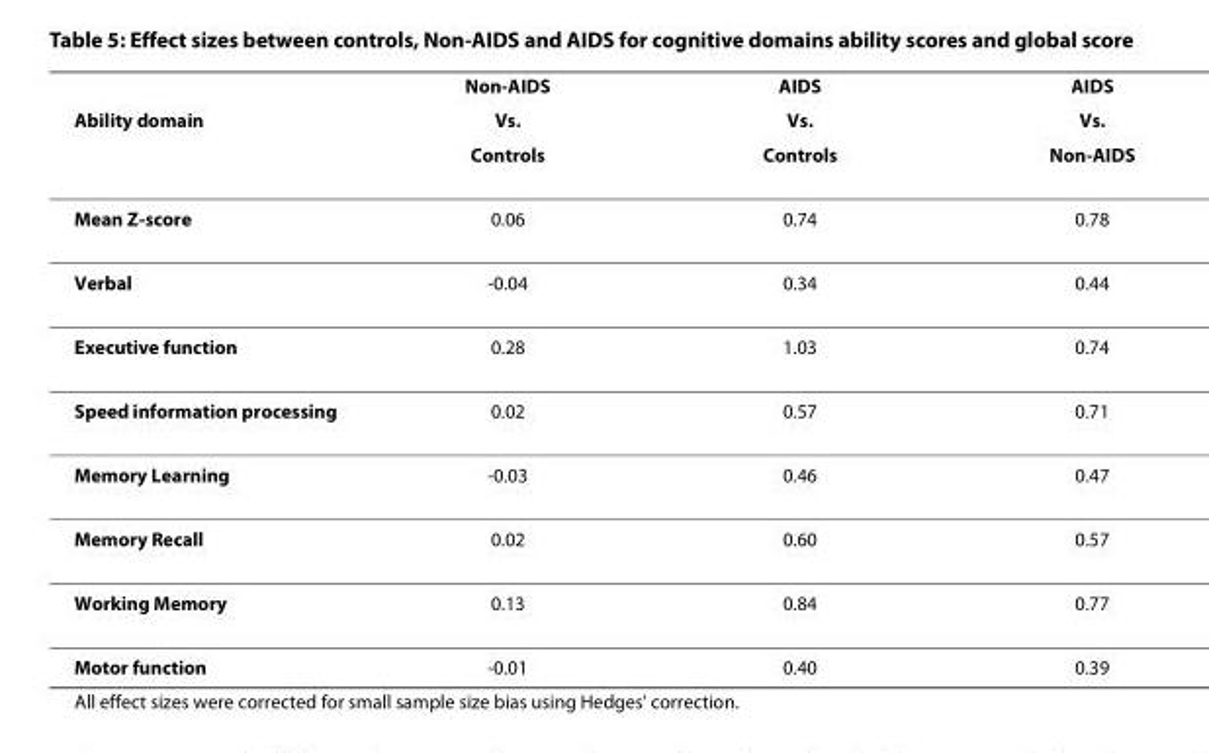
<table><thead><tr><td rowspan="3">Ability domain</td><td rowspan="3">Non-AIDS Vs. Controls</td><td rowspan="3">AIDS Vs. Controls</td><td rowspan="3">AIDS Vs. Non-AIDS</td></tr><tr></tr><tr></tr></thead><tbody><tr><td>Mean Z-score</td><td>0.06</td><td>0.74</td><td>0.78</td></tr><tr><td>Verbal</td><td>-0.04</td><td>0.34</td><td>0.44</td></tr><tr><td>Executive function</td><td>0.28</td><td>1.03</td><td>0.74</td></tr><tr><td>Speed information processing</td><td>0.02</td><td>0.57</td><td>0.71</td></tr><tr><td>Memory Learning</td><td>-0.03</td><td>0.46</td><td>0.47</td></tr><tr><td>Memory Recall</td><td>0.02</td><td>0.60</td><td>0.57</td></tr><tr><td>Working Memory</td><td>0.13</td><td>0.84</td><td>0.77</td></tr><tr><td>Motor function</td><td>-0.01</td><td>0.40</td><td>0.39</td></tr></tbody></table>